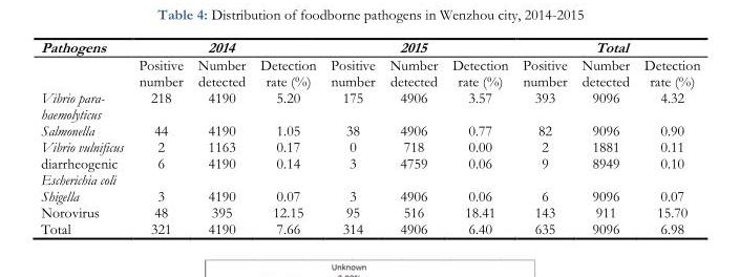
<table><thead><tr><td rowspan="2">Pathogens</td><td colspan="3">2014</td><td colspan="3">2015</td><td colspan="3">Total</td></tr><tr><td>Positive number</td><td>Number detected</td><td>Detection rate (%)</td><td>Positive number</td><td>Number detected</td><td>Detection rate (%)</td><td>Positive number</td><td>Number detected</td><td>Detection rate (%)</td></tr></thead><tbody><tr><td>Vibrio para- haemolyticus</td><td>218</td><td>4190</td><td>5.20</td><td>175</td><td>4906</td><td>3.57</td><td>393</td><td>9096</td><td>4.32</td></tr><tr><td>Salmonella</td><td>44</td><td>4190</td><td>1.05</td><td>38</td><td>4906</td><td>0.77</td><td>82</td><td>9096</td><td>0.90</td></tr><tr><td>Vibrio vulnificus</td><td>2</td><td>1163</td><td>0.17</td><td>0</td><td>718</td><td>0.00</td><td>2</td><td>1881</td><td>0.11</td></tr><tr><td>diarrheogenic Escherichia coli</td><td>6</td><td>4190</td><td>0.14</td><td>3</td><td>4759</td><td>0.06</td><td>9</td><td>8949</td><td>0.10</td></tr><tr><td>Shigella</td><td>3</td><td>4190</td><td>0.07</td><td>3</td><td>4906</td><td>0.06</td><td>6</td><td>9096</td><td>0.07</td></tr><tr><td>Norovirus</td><td>48</td><td>395</td><td>12.15</td><td>95</td><td>516</td><td>18.41</td><td>143</td><td>911</td><td>15.70</td></tr><tr><td>Total</td><td>321</td><td>4190</td><td>7.66</td><td>314</td><td>4906</td><td>6.40</td><td>635</td><td>9096</td><td>6.98</td></tr></tbody></table>